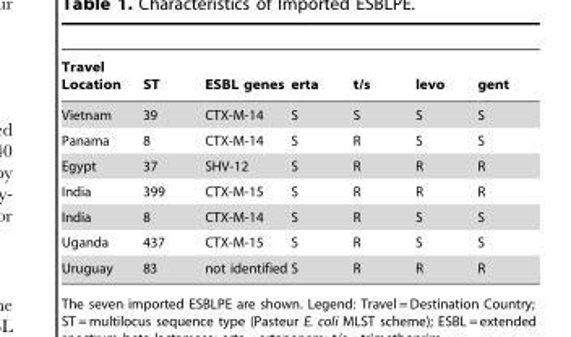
<table><thead><tr><td>Travel Location</td><td>ST</td><td>ESBL genes</td><td>erta</td><td>t/s</td><td>levo</td><td>gent</td></tr></thead><tbody><tr><td>Vietnam</td><td>39</td><td>CTX-M-14</td><td>S</td><td>S</td><td>S</td><td>S</td></tr><tr><td>Panama</td><td>8</td><td>CTX-M-14</td><td>S</td><td>R</td><td>S</td><td>S</td></tr><tr><td>Egypt</td><td>37</td><td>SHV-12</td><td>S</td><td>R</td><td>R</td><td>R</td></tr><tr><td>India</td><td>399</td><td>CTX-M-15</td><td>S</td><td>R</td><td>R</td><td>R</td></tr><tr><td>India</td><td>8</td><td>CTX-M-14</td><td>S</td><td>R</td><td>S</td><td>S</td></tr><tr><td>Uganda</td><td>437</td><td>CTX-M-15</td><td>S</td><td>R</td><td>S</td><td>S</td></tr><tr><td>Uruguay</td><td>83</td><td>not identified</td><td>S</td><td>R</td><td>R</td><td>R</td></tr></tbody></table>